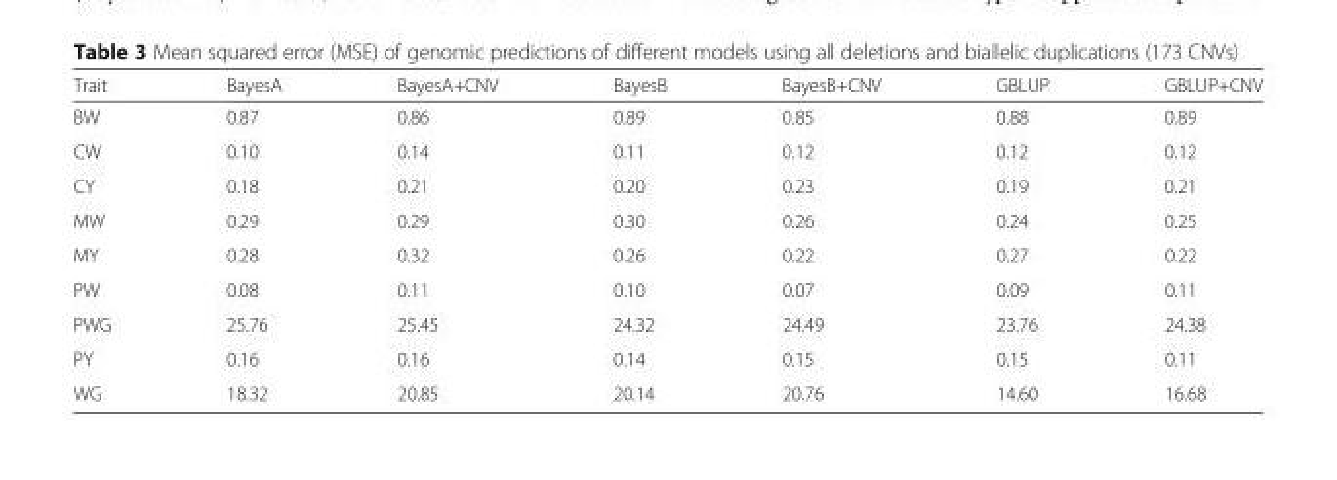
<table><thead><tr><td>Trait</td><td>BayesA</td><td>BayesA+CNV</td><td>BayesB</td><td>BayesB+CNV</td><td>GBLUP</td><td>GBLUP+CNV</td></tr></thead><tbody><tr><td>BW</td><td>0.87</td><td>0.86</td><td>0.89</td><td>0.85</td><td>0.88</td><td>0.89</td></tr><tr><td>CW</td><td>0.10</td><td>0.14</td><td>0.11</td><td>0.12</td><td>0.12</td><td>0.12</td></tr><tr><td>CY</td><td>0.18</td><td>0.21</td><td>0.20</td><td>0.23</td><td>0.19</td><td>0.21</td></tr><tr><td>MW</td><td>0.29</td><td>0.29</td><td>0.30</td><td>0.26</td><td>0.24</td><td>0.25</td></tr><tr><td>MY</td><td>0.28</td><td>0.32</td><td>0.26</td><td>0.22</td><td>0.27</td><td>0.22</td></tr><tr><td>PW</td><td>0.08</td><td>0.11</td><td>0.10</td><td>0.07</td><td>0.09</td><td>0.11</td></tr><tr><td>PWG</td><td>25.76</td><td>25.45</td><td>24.32</td><td>24.49</td><td>23.76</td><td>24.38</td></tr><tr><td>PY</td><td>0.16</td><td>0.16</td><td>0.14</td><td>0.15</td><td>0.15</td><td>0.11</td></tr><tr><td>WG</td><td>18.32</td><td>20.85</td><td>20.14</td><td>20.76</td><td>14.60</td><td>16.68</td></tr></tbody></table>